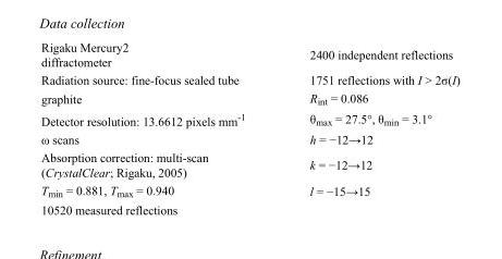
<table><tbody><tr><td>Rigaku Mercury2 diffractometer</td><td>2400 independent reflections</td></tr><tr><td>Radiation source: fine-focus sealed tube</td><td>1751 reflections with I &gt; 2σ(I)</td></tr><tr><td>graphite</td><td>R<sub>int</sub> = 0.086</td></tr><tr><td>Detector resolution: 13.6612 pixels mm<sup>-1</sup></td><td>θ<sub>max</sub> = 27.5°, θ<sub>min</sub> = 3.1°</td></tr><tr><td>ω scans</td><td>h = −12→12</td></tr><tr><td>Absorption correction: multi-scan (CrystalClear; Rigaku, 2005)</td><td>k = −12→12</td></tr><tr><td>T<sub>min</sub> = 0.881, T<sub>max</sub> = 0.940</td><td>l = −15→15</td></tr><tr><td>10520 measured reflections</td><td></td></tr></tbody></table>